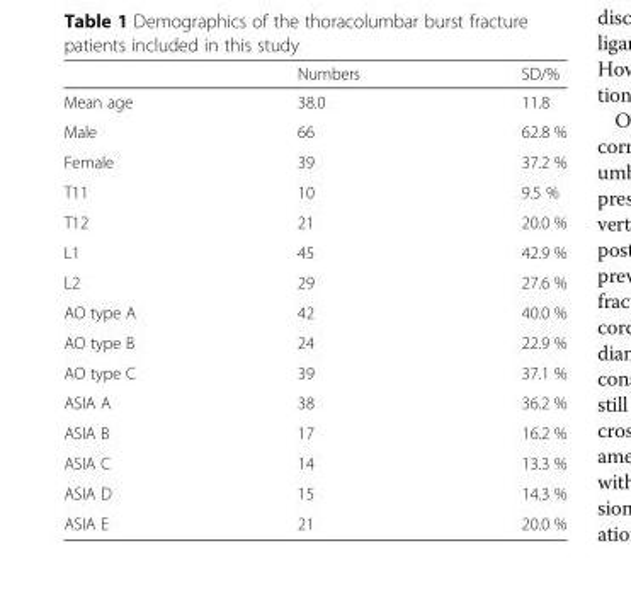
<table><thead><tr><td></td><td>Numbers</td><td>SD/%</td></tr></thead><tbody><tr><td>Mean age</td><td>38.0</td><td>11.8</td></tr><tr><td>Male</td><td>66</td><td>62.8 %</td></tr><tr><td>Female</td><td>39</td><td>37.2 %</td></tr><tr><td>T11</td><td>10</td><td>9.5 %</td></tr><tr><td>T12</td><td>21</td><td>20.0 %</td></tr><tr><td>L1</td><td>45</td><td>42.9 %</td></tr><tr><td>L2</td><td>29</td><td>27.6 %</td></tr><tr><td>AO type A</td><td>42</td><td>40.0 %</td></tr><tr><td>AO type B</td><td>24</td><td>22.9 %</td></tr><tr><td>AO type C</td><td>39</td><td>37.1 %</td></tr><tr><td>ASIA A</td><td>38</td><td>36.2 %</td></tr><tr><td>ASIA B</td><td>17</td><td>16.2 %</td></tr><tr><td>ASIA C</td><td>14</td><td>13.3 %</td></tr><tr><td>ASIA D</td><td>15</td><td>14.3 %</td></tr><tr><td>ASIA E</td><td>21</td><td>20.0 %</td></tr></tbody></table>